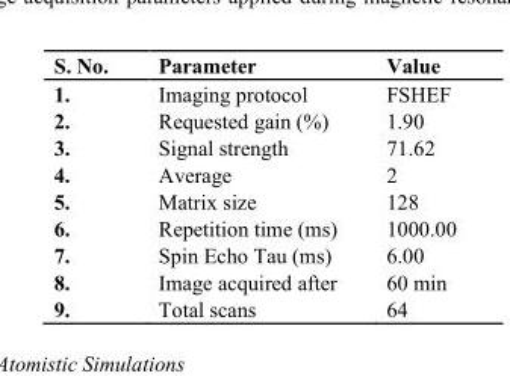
<table><thead><tr><td>S. No.</td><td>Parameter</td><td>Value</td></tr></thead><tbody><tr><td>1.</td><td>Imaging protocol</td><td>FSHEF</td></tr><tr><td>2.</td><td>Requested gain (%)</td><td>1.90</td></tr><tr><td>3.</td><td>Signal strength</td><td>71.62</td></tr><tr><td>4.</td><td>Average</td><td>2</td></tr><tr><td>5.</td><td>Matrix size</td><td>128</td></tr><tr><td>6.</td><td>Repetition time (ms)</td><td>1000.00</td></tr><tr><td>7.</td><td>Spin Echo Tau (ms)</td><td>6.00</td></tr><tr><td>8.</td><td>Image acquired after</td><td>60 min</td></tr><tr><td>9.</td><td>Total scans</td><td>64</td></tr></tbody></table>